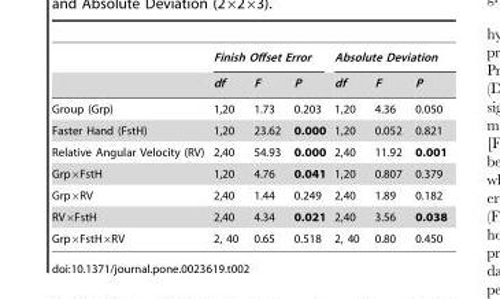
<table><thead><tr><td rowspan="2"></td><td colspan="3">Finish Offset Error</td><td colspan="3">Absolute Deviation</td></tr><tr><td>df</td><td>F</td><td>P</td><td>df</td><td>F</td><td>P</td></tr></thead><tbody><tr><td>Group (Grp)</td><td>1,20</td><td>1.73</td><td>0.203</td><td>1,20</td><td>4.36</td><td>0.050</td></tr><tr><td>Faster Hand (FstH)</td><td>1,20</td><td>23.62</td><td>0.000</td><td>1,20</td><td>0.052</td><td>0.821</td></tr><tr><td>Relative Angular Velocity (RV)</td><td>2,40</td><td>54.93</td><td>0.000</td><td>2,40</td><td>11.92</td><td>0.001</td></tr><tr><td>Grp×FstH</td><td>1,20</td><td>4.76</td><td>0.041</td><td>1,20</td><td>0.807</td><td>0.379</td></tr><tr><td>Grp×RV</td><td>2,40</td><td>1.44</td><td>0.249</td><td>2,40</td><td>1.89</td><td>0.182</td></tr><tr><td>RV×FstH</td><td>2,40</td><td>4.34</td><td>0.021</td><td>2,40</td><td>3.56</td><td>0.038</td></tr><tr><td>Grp×FstH×RV</td><td>2, 40</td><td>0.65</td><td>0.518</td><td>2, 40</td><td>0.80</td><td>0.450</td></tr></tbody></table>